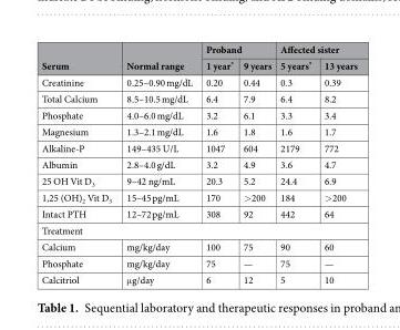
<table><thead><tr><td rowspan="2">Serum</td><td rowspan="2">Normal range</td><td colspan="2">Proband</td><td colspan="2">Affected sister</td></tr><tr><td>1 year*</td><td>9 years</td><td>5 years*</td><td>13 years</td></tr></thead><tbody><tr><td>Creatinine</td><td>0.25–0.90 mg/dL</td><td>0.20</td><td>0.44</td><td>0.3</td><td>0.39</td></tr><tr><td>Total Calcium</td><td>8.5–10.5 mg/dL</td><td>6.4</td><td>7.9</td><td>6.4</td><td>8.2</td></tr><tr><td>Phosphate</td><td>4.0–6.0 mg/dL</td><td>3.2</td><td>6.1</td><td>3.3</td><td>3.4</td></tr><tr><td>Magnesium</td><td>1.3–2.1 mg/dL</td><td>1.6</td><td>1.8</td><td>1.6</td><td>1.7</td></tr><tr><td>Alkaline-P</td><td>149–435 U/L</td><td>1047</td><td>604</td><td>2179</td><td>772</td></tr><tr><td>Albumin</td><td>2.8–4.0 g/dL</td><td>3.2</td><td>4.9</td><td>3.6</td><td>4.7</td></tr><tr><td>25 OH Vit D<sub>3</sub></td><td>9–42 ng/mL</td><td>20.3</td><td>5.2</td><td>24.4</td><td>6.9</td></tr><tr><td>1,25 (OH)<sub>2</sub> Vit D<sub>3</sub></td><td>15–45 pg/mL</td><td>170</td><td>&gt;200</td><td>184</td><td>&gt;200</td></tr><tr><td>Intact PTH</td><td>12–72 pg/mL</td><td>308</td><td>92</td><td>442</td><td>64</td></tr><tr><td colspan="6">Treatment</td></tr><tr><td>Calcium</td><td>mg/kg/day</td><td>100</td><td>75</td><td>90</td><td>60</td></tr><tr><td>Phosphate</td><td>mg/kg/day</td><td>75</td><td>—</td><td>75</td><td>—</td></tr><tr><td>Calcitriol</td><td>μg/day</td><td>6</td><td>12</td><td>5</td><td>10</td></tr></tbody></table>